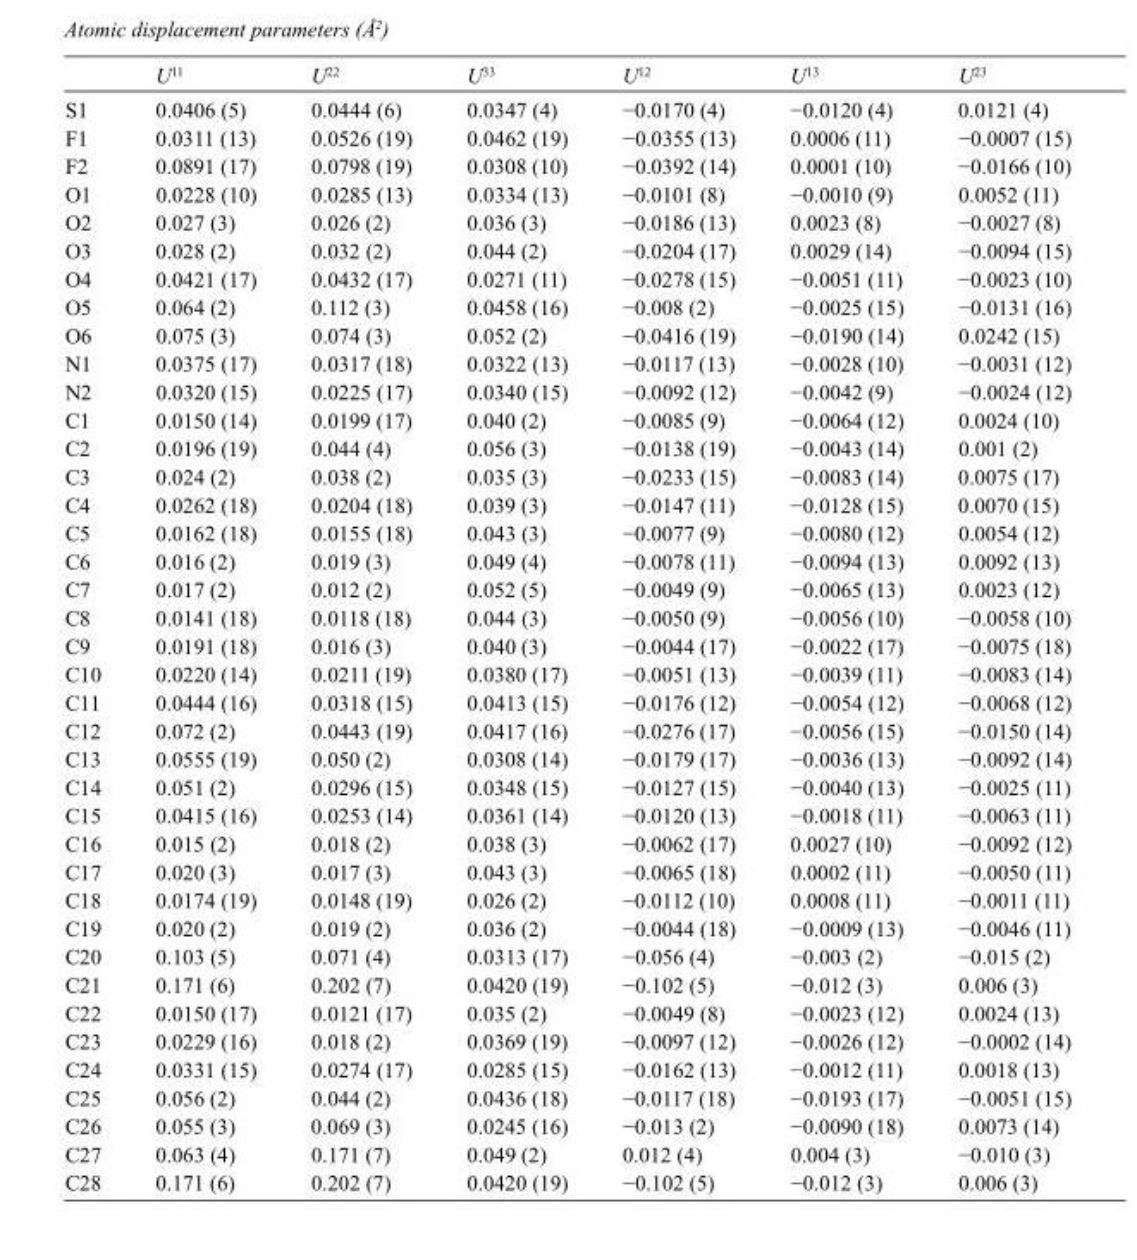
<table><thead><tr><td></td><td>U<sup>11</sup></td><td>U<sup>22</sup></td><td>U<sup>33</sup></td><td>U<sup>12</sup></td><td>U<sup>13</sup></td><td>U<sup>23</sup></td></tr></thead><tbody><tr><td>S1</td><td>0.0406 (5)</td><td>0.0444 (6)</td><td>0.0347 (4)</td><td>−0.0170 (4)</td><td>−0.0120 (4)</td><td>0.0121 (4)</td></tr><tr><td>F1</td><td>0.0311 (13)</td><td>0.0526 (19)</td><td>0.0462 (19)</td><td>−0.0355 (13)</td><td>0.0006 (11)</td><td>−0.0007 (15)</td></tr><tr><td>F2</td><td>0.0891 (17)</td><td>0.0798 (19)</td><td>0.0308 (10)</td><td>−0.0392 (14)</td><td>0.0001 (10)</td><td>−0.0166 (10)</td></tr><tr><td>O1</td><td>0.0228 (10)</td><td>0.0285 (13)</td><td>0.0334 (13)</td><td>−0.0101 (8)</td><td>−0.0010 (9)</td><td>0.0052 (11)</td></tr><tr><td>O2</td><td>0.027 (3)</td><td>0.026 (2)</td><td>0.036 (3)</td><td>−0.0186 (13)</td><td>0.0023 (8)</td><td>−0.0027 (8)</td></tr><tr><td>O3</td><td>0.028 (2)</td><td>0.032 (2)</td><td>0.044 (2)</td><td>−0.0204 (17)</td><td>0.0029 (14)</td><td>−0.0094 (15)</td></tr><tr><td>O4</td><td>0.0421 (17)</td><td>0.0432 (17)</td><td>0.0271 (11)</td><td>−0.0278 (15)</td><td>−0.0051 (11)</td><td>−0.0023 (10)</td></tr><tr><td>O5</td><td>0.064 (2)</td><td>0.112 (3)</td><td>0.0458 (16)</td><td>−0.008 (2)</td><td>−0.0025 (15)</td><td>−0.0131 (16)</td></tr><tr><td>O6</td><td>0.075 (3)</td><td>0.074 (3)</td><td>0.052 (2)</td><td>−0.0416 (19)</td><td>−0.0190 (14)</td><td>0.0242 (15)</td></tr><tr><td>N1</td><td>0.0375 (17)</td><td>0.0317 (18)</td><td>0.0322 (13)</td><td>−0.0117 (13)</td><td>−0.0028 (10)</td><td>−0.0031 (12)</td></tr><tr><td>N2</td><td>0.0320 (15)</td><td>0.0225 (17)</td><td>0.0340 (15)</td><td>−0.0092 (12)</td><td>−0.0042 (9)</td><td>−0.0024 (12)</td></tr><tr><td>C1</td><td>0.0150 (14)</td><td>0.0199 (17)</td><td>0.040 (2)</td><td>−0.0085 (9)</td><td>−0.0064 (12)</td><td>0.0024 (10)</td></tr><tr><td>C2</td><td>0.0196 (19)</td><td>0.044 (4)</td><td>0.056 (3)</td><td>−0.0138 (19)</td><td>−0.0043 (14)</td><td>0.001 (2)</td></tr><tr><td>C3</td><td>0.024 (2)</td><td>0.038 (2)</td><td>0.035 (3)</td><td>−0.0233 (15)</td><td>−0.0083 (14)</td><td>0.0075 (17)</td></tr><tr><td>C4</td><td>0.0262 (18)</td><td>0.0204 (18)</td><td>0.039 (3)</td><td>−0.0147 (11)</td><td>−0.0128 (15)</td><td>0.0070 (15)</td></tr><tr><td>C5</td><td>0.0162 (18)</td><td>0.0155 (18)</td><td>0.043 (3)</td><td>−0.0077 (9)</td><td>−0.0080 (12)</td><td>0.0054 (12)</td></tr><tr><td>C6</td><td>0.016 (2)</td><td>0.019 (3)</td><td>0.049 (4)</td><td>−0.0078 (11)</td><td>−0.0094 (13)</td><td>0.0092 (13)</td></tr><tr><td>C7</td><td>0.017 (2)</td><td>0.012 (2)</td><td>0.052 (5)</td><td>−0.0049 (9)</td><td>−0.0065 (13)</td><td>0.0023 (12)</td></tr><tr><td>C8</td><td>0.0141 (18)</td><td>0.0118 (18)</td><td>0.044 (3)</td><td>−0.0050 (9)</td><td>−0.0056 (10)</td><td>−0.0058 (10)</td></tr><tr><td>C9</td><td>0.0191 (18)</td><td>0.016 (3)</td><td>0.040 (3)</td><td>−0.0044 (17)</td><td>−0.0022 (17)</td><td>−0.0075 (18)</td></tr><tr><td>C10</td><td>0.0220 (14)</td><td>0.0211 (19)</td><td>0.0380 (17)</td><td>−0.0051 (13)</td><td>−0.0039 (11)</td><td>−0.0083 (14)</td></tr><tr><td>C11</td><td>0.0444 (16)</td><td>0.0318 (15)</td><td>0.0413 (15)</td><td>−0.0176 (12)</td><td>−0.0054 (12)</td><td>−0.0068 (12)</td></tr><tr><td>C12</td><td>0.072 (2)</td><td>0.0443 (19)</td><td>0.0417 (16)</td><td>−0.0276 (17)</td><td>−0.0056 (15)</td><td>−0.0150 (14)</td></tr><tr><td>C13</td><td>0.0555 (19)</td><td>0.050 (2)</td><td>0.0308 (14)</td><td>−0.0179 (17)</td><td>−0.0036 (13)</td><td>−0.0092 (14)</td></tr><tr><td>C14</td><td>0.051 (2)</td><td>0.0296 (15)</td><td>0.0348 (15)</td><td>−0.0127 (15)</td><td>−0.0040 (13)</td><td>−0.0025 (11)</td></tr><tr><td>C15</td><td>0.0415 (16)</td><td>0.0253 (14)</td><td>0.0361 (14)</td><td>−0.0120 (13)</td><td>−0.0018 (11)</td><td>−0.0063 (11)</td></tr><tr><td>C16</td><td>0.015 (2)</td><td>0.018 (2)</td><td>0.038 (3)</td><td>−0.0062 (17)</td><td>0.0027 (10)</td><td>−0.0092 (12)</td></tr><tr><td>C17</td><td>0.020 (3)</td><td>0.017 (3)</td><td>0.043 (3)</td><td>−0.0065 (18)</td><td>0.0002 (11)</td><td>−0.0050 (11)</td></tr><tr><td>C18</td><td>0.0174 (19)</td><td>0.0148 (19)</td><td>0.026 (2)</td><td>−0.0112 (10)</td><td>0.0008 (11)</td><td>−0.0011 (11)</td></tr><tr><td>C19</td><td>0.020 (2)</td><td>0.019 (2)</td><td>0.036 (2)</td><td>−0.0044 (18)</td><td>−0.0009 (13)</td><td>−0.0046 (11)</td></tr><tr><td>C20</td><td>0.103 (5)</td><td>0.071 (4)</td><td>0.0313 (17)</td><td>−0.056 (4)</td><td>−0.003 (2)</td><td>−0.015 (2)</td></tr><tr><td>C21</td><td>0.171 (6)</td><td>0.202 (7)</td><td>0.0420 (19)</td><td>−0.102 (5)</td><td>−0.012 (3)</td><td>0.006 (3)</td></tr><tr><td>C22</td><td>0.0150 (17)</td><td>0.0121 (17)</td><td>0.035 (2)</td><td>−0.0049 (8)</td><td>−0.0023 (12)</td><td>0.0024 (13)</td></tr><tr><td>C23</td><td>0.0229 (16)</td><td>0.018 (2)</td><td>0.0369 (19)</td><td>−0.0097 (12)</td><td>−0.0026 (12)</td><td>−0.0002 (14)</td></tr><tr><td>C24</td><td>0.0331 (15)</td><td>0.0274 (17)</td><td>0.0285 (15)</td><td>−0.0162 (13)</td><td>−0.0012 (11)</td><td>0.0018 (13)</td></tr><tr><td>C25</td><td>0.056 (2)</td><td>0.044 (2)</td><td>0.0436 (18)</td><td>−0.0117 (18)</td><td>−0.0193 (17)</td><td>−0.0051 (15)</td></tr><tr><td>C26</td><td>0.055 (3)</td><td>0.069 (3)</td><td>0.0245 (16)</td><td>−0.013 (2)</td><td>−0.0090 (18)</td><td>0.0073 (14)</td></tr><tr><td>C27</td><td>0.063 (4)</td><td>0.171 (7)</td><td>0.049 (2)</td><td>0.012 (4)</td><td>0.004 (3)</td><td>−0.010 (3)</td></tr><tr><td>C28</td><td>0.171 (6)</td><td>0.202 (7)</td><td>0.0420 (19)</td><td>−0.102 (5)</td><td>−0.012 (3)</td><td>0.006 (3)</td></tr></tbody></table>